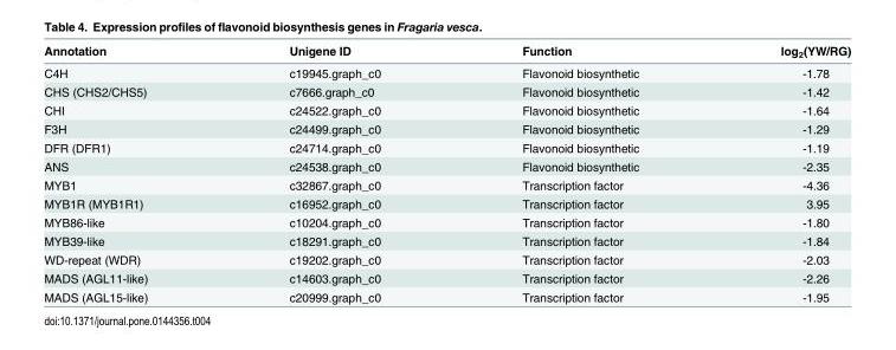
<table><thead><tr><td>Annotation</td><td>Unigene ID</td><td>Function</td><td>log<sub>2</sub>(YW/RG)</td></tr></thead><tbody><tr><td>C4H</td><td>c19945.graph_c0</td><td>Flavonoid biosynthetic</td><td>-1.78</td></tr><tr><td>CHS (CHS2/CHS5)</td><td>c7666.graph_c0</td><td>Flavonoid biosynthetic</td><td>-1.42</td></tr><tr><td>CHI</td><td>c24522.graph_c0</td><td>Flavonoid biosynthetic</td><td>-1.64</td></tr><tr><td>F3H</td><td>c24499.graph_c0</td><td>Flavonoid biosynthetic</td><td>-1.29</td></tr><tr><td>DFR (DFR1)</td><td>c24714.graph_c0</td><td>Flavonoid biosynthetic</td><td>-1.19</td></tr><tr><td>ANS</td><td>c24538.graph_c0</td><td>Flavonoid biosynthetic</td><td>-2.35</td></tr><tr><td>MYB1</td><td>c32867.graph_c0</td><td>Transcription factor</td><td>-4.36</td></tr><tr><td>MYB1R (MYB1R1)</td><td>c16952.graph_c0</td><td>Transcription factor</td><td>3.95</td></tr><tr><td>MYB86-like</td><td>c10204.graph_c0</td><td>Transcription factor</td><td>-1.80</td></tr><tr><td>MYB39-like</td><td>c18291.graph_c0</td><td>Transcription factor</td><td>-1.84</td></tr><tr><td>WD-repeat (WDR)</td><td>c19202.graph_c0</td><td>Transcription factor</td><td>-2.03</td></tr><tr><td>MADS (AGL11-like)</td><td>c14603.graph_c0</td><td>Transcription factor</td><td>-2.26</td></tr><tr><td>MADS (AGL15-like)</td><td>c20999.graph_c0</td><td>Transcription factor</td><td>-1.95</td></tr></tbody></table>